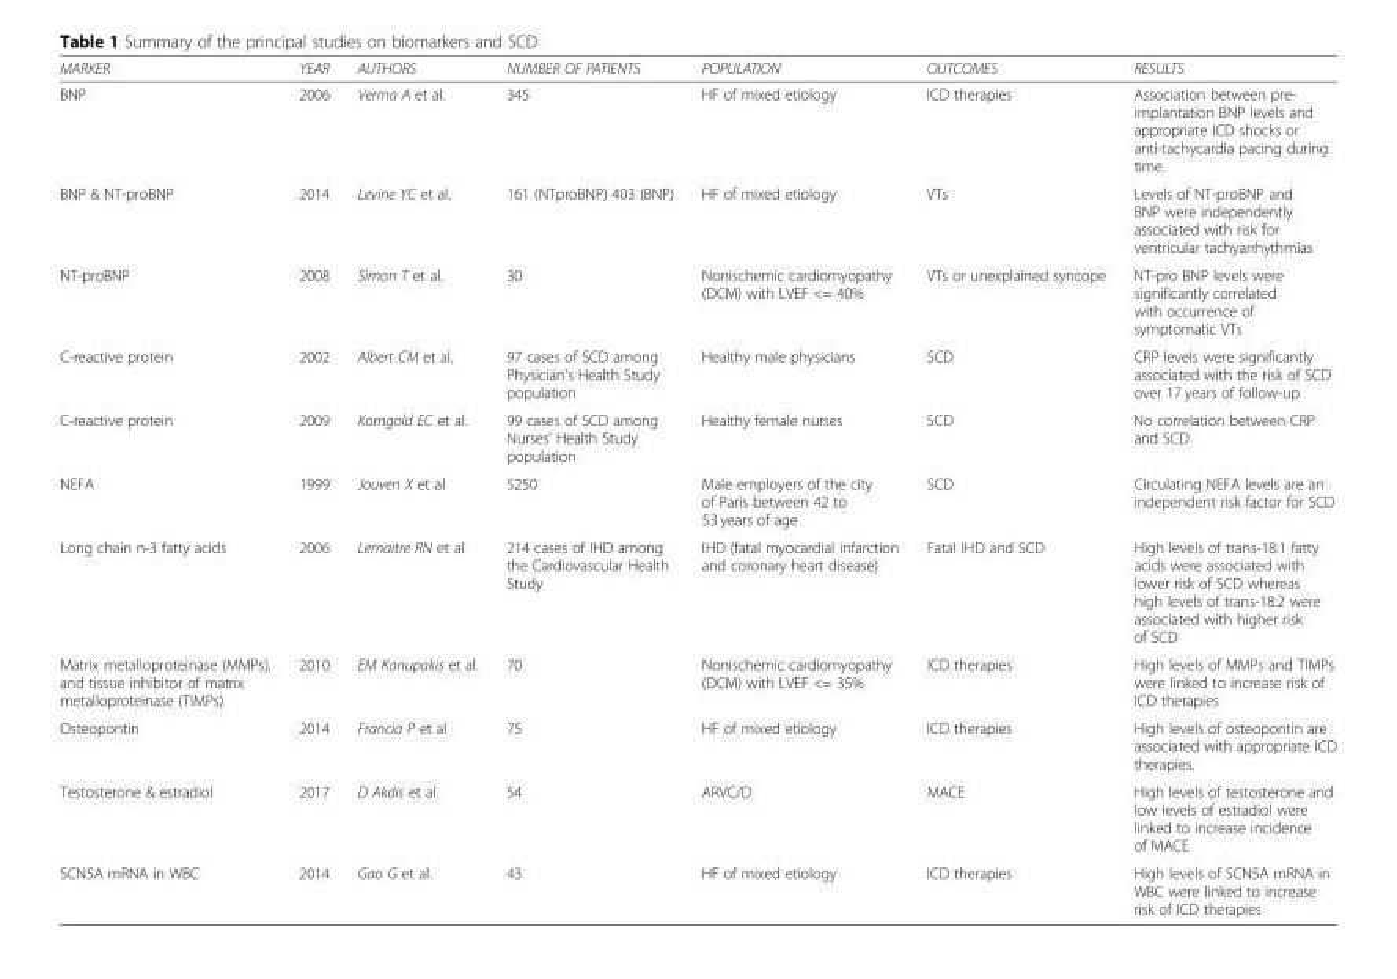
<table><thead><tr><td>MARKER</td><td>YEAR</td><td>AUTHORS</td><td>NUMBER OF PATIENTS</td><td>POPULATION</td><td>OUTCOMES</td><td>RESULTS</td></tr></thead><tbody><tr><td>BNP</td><td>2006</td><td>Verma A et al.</td><td>345</td><td>HF of mixed etiology</td><td>ICD therapies</td><td>Association between pre- implantation BNP levels and appropriate ICD shocks or anti-tachycardia pacing during time.</td></tr><tr><td>BNP &amp; NT-proBNP</td><td>2014</td><td>Levine YC et al.</td><td>161 (NTproBNP) 403 (BNP)</td><td>HF of mixed etiology</td><td>VTs</td><td>Levels of NT-proBNP and BNP were independently associated with risk for ventricular tachyarrhythmias</td></tr><tr><td>NT-proBNP</td><td>2008</td><td>Simon T et al.</td><td>30</td><td>Nonischemic cardiomyopathy (DCM) with LVEF &lt;= 40%</td><td>VTs or unexplained syncope</td><td>NT-pro BNP levels were significantly correlated with occurrence of symptomatic VTs</td></tr><tr><td>C-reactive protein</td><td>2002</td><td>Albert CM et al.</td><td>97 cases of SCD among Physician’s Health Study population</td><td>Healthy male physicians</td><td>SCD</td><td>CRP levels were significantly associated with the risk of SCD over 17 years of follow-up</td></tr><tr><td>C-reactive protein</td><td>2009</td><td>Korngold EC et al.</td><td>99 cases of SCD among Nurses’ Health Study population</td><td>Healthy female nurses</td><td>SCD</td><td>No correlation between CRP and SCD</td></tr><tr><td>NEFA</td><td>1999</td><td>Jouven X et al</td><td>5250</td><td>Male employers of the city of Paris between 42 to 53 years of age</td><td>SCD</td><td>Circulating NEFA levels are an independent risk factor for SCD</td></tr><tr><td>Long chain n-3 fatty acids</td><td>2006</td><td>Lemaitre RN et al</td><td>214 cases of IHD among the Cardiovascular Health Study</td><td>IHD (fatal myocardial infarction and coronary heart disease)</td><td>Fatal IHD and SCD</td><td>High levels of trans-18:1 fatty acids were associated with lower risk of SCD whereas high levels of trans-18:2 were associated with higher risk of SCD</td></tr><tr><td>Matrix metalloproteinase (MMPs), and tissue inhibitor of matrix metalloproteinase (TIMPs)</td><td>2010</td><td>EM Kanupakis et al.</td><td>70</td><td>Nonischemic cardiomyopathy (DCM) with LVEF &lt;= 35%</td><td>ICD therapies</td><td>High levels of MMPs and TIMPs were linked to increase risk of ICD therapies</td></tr><tr><td>Osteopontin</td><td>2014</td><td>Francia P et al</td><td>75</td><td>HF of mixed etiology</td><td>ICD therapies</td><td>High levels of osteopontin are associated with appropriate ICD therapies.</td></tr><tr><td>Testosterone &amp; estradiol</td><td>2017</td><td>D Akdis et al.</td><td>54</td><td>ARVC/D</td><td>MACE</td><td>High levels of testosterone and low levels of estradiol were linked to increase incidence of MACE</td></tr><tr><td>SCN5A mRNA in WBC</td><td>2014</td><td>Gao G et al.</td><td>43</td><td>HF of mixed etiology</td><td>ICD therapies</td><td>High levels of SCN5A mRNA in WBC were linked to increase risk of ICD therapies</td></tr></tbody></table>